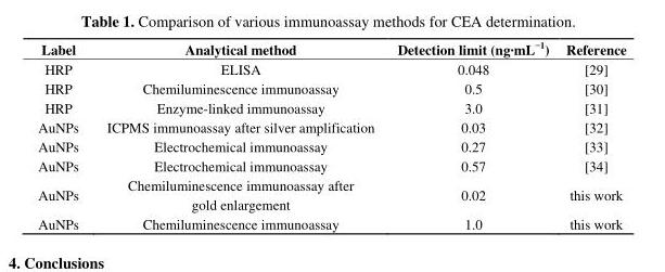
<table><thead><tr><td>Label</td><td>Analytical method</td><td>Detection limit (ng∙mL−1)</td><td>Reference</td></tr></thead><tbody><tr><td>HRP</td><td>ELISA</td><td>0.048</td><td>[29]</td></tr><tr><td>HRP</td><td>Chemiluminescence immunoassay</td><td>0.5</td><td>[30]</td></tr><tr><td>HRP</td><td>Enzyme-linked immunoassay</td><td>3.0</td><td>[31]</td></tr><tr><td>AuNPs</td><td>ICPMS immunoassay after silver amplification</td><td>0.03</td><td>[32]</td></tr><tr><td>AuNPs</td><td>Electrochemical immunoassay</td><td>0.27</td><td>[33]</td></tr><tr><td>AuNPs</td><td>Electrochemical immunoassay</td><td>0.57</td><td>[34]</td></tr><tr><td>AuNPs</td><td>Chemiluminescence immunoassay after gold enlargement</td><td>0.02</td><td>this work</td></tr><tr><td>AuNPs</td><td>Chemiluminescence immunoassay</td><td>1.0</td><td>this work</td></tr></tbody></table>